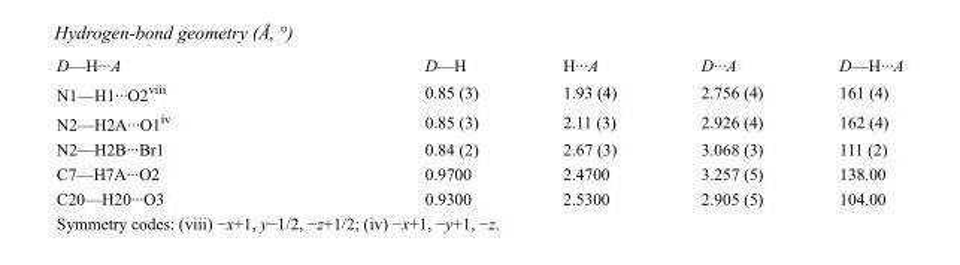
<table><tbody><tr><td>D—H···A</td><td>D—H</td><td>H···A</td><td>D···A</td><td>D—H···A</td></tr><tr><td>N1—H1···O2<sup>viii</sup></td><td>0.85 (3)</td><td>1.93 (4)</td><td>2.756 (4)</td><td>161 (4)</td></tr><tr><td>N2—H2A···O1<sup>iv</sup></td><td>0.85 (3)</td><td>2.11 (3)</td><td>2.926 (4)</td><td>162 (4)</td></tr><tr><td>N2—H2B···Br1</td><td>0.84 (2)</td><td>2.67 (3)</td><td>3.068 (3)</td><td>111 (2)</td></tr><tr><td>C7—H7A···O2</td><td>0.9700</td><td>2.4700</td><td>3.257 (5)</td><td>138.00</td></tr><tr><td>C20—H20···O3</td><td>0.9300</td><td>2.5300</td><td>2.905 (5)</td><td>104.00</td></tr></tbody></table>